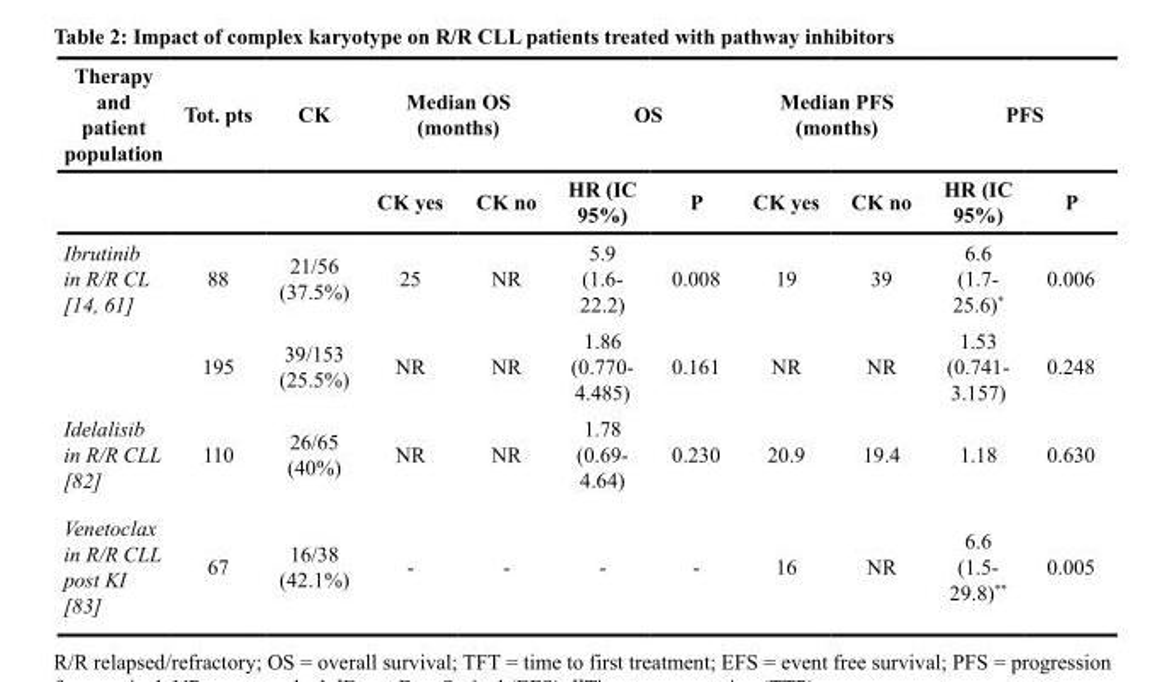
<table><thead><tr><td rowspan="2">Therapy and patient population</td><td rowspan="2">Tot. pts</td><td rowspan="2">CK</td><td colspan="2">Median OS (months)</td><td colspan="2">OS</td><td colspan="2">Median PFS (months)</td><td colspan="2">PFS</td></tr><tr><td>CK yes</td><td>CK no</td><td>HR (IC 95%)</td><td>P</td><td>CK yes</td><td>CK no</td><td>HR (IC 95%)</td><td>P</td></tr></thead><tbody><tr><td rowspan="2">Ibrutinib in R/R CL [14, 61]</td><td>88</td><td>21/56 (37.5%)</td><td>25</td><td>NR</td><td>5.9 (1.6- 22.2)</td><td>0.008</td><td>19</td><td>39</td><td>6.6 (1.7- 25.6)*</td><td>0.006</td></tr><tr><td>195</td><td>39/153 (25.5%)</td><td>NR</td><td>NR</td><td>1.86 (0.770- 4.485)</td><td>0.161</td><td>NR</td><td>NR</td><td>1.53 (0.741- 3.157)</td><td>0.248</td></tr><tr><td>Idelalisib in R/R CLL [82]</td><td>110</td><td>26/65 (40%)</td><td>NR</td><td>NR</td><td>1.78 (0.69- 4.64)</td><td>0.230</td><td>20.9</td><td>19.4</td><td>1.18</td><td>0.630</td></tr><tr><td>Venetoclax in R/R CLL post KI [83]</td><td>67</td><td>16/38 (42.1%)</td><td>-</td><td>-</td><td>-</td><td>-</td><td>16</td><td>NR</td><td>6.6 (1.5- 29.8)**</td><td>0.005</td></tr></tbody></table>